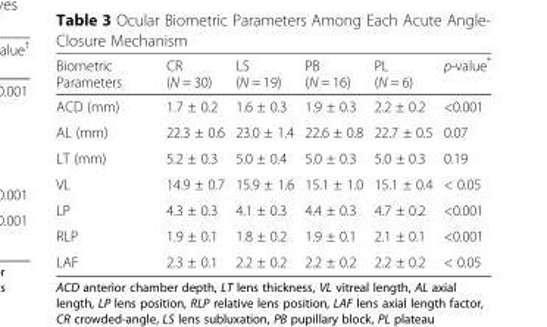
<table><thead><tr><td>Biometric Parameters</td><td>CR (N = 30)</td><td>LS (N = 19)</td><td>PB (N = 16)</td><td>PL (N = 6)</td><td>p-value*</td></tr></thead><tbody><tr><td>ACD (mm)</td><td>1.7 ± 0.2</td><td>1.6 ± 0.3</td><td>1.9 ± 0.3</td><td>2.2 ± 0.2</td><td>&lt;0.001</td></tr><tr><td>AL (mm)</td><td>22.3 ± 0.6</td><td>23.0 ± 1.4</td><td>22.6 ± 0.8</td><td>22.7 ± 0.5</td><td>0.07</td></tr><tr><td>LT (mm)</td><td>5.2 ± 0.3</td><td>5.0 ± 0.4</td><td>5.0 ± 0.3</td><td>5.0 ± 0.3</td><td>0.19</td></tr><tr><td>VL</td><td>14.9 ± 0.7</td><td>15.9 ± 1.6</td><td>15.1 ± 1.0</td><td>15.1 ± 0.4</td><td>&lt; 0.05</td></tr><tr><td>LP</td><td>4.3 ± 0.3</td><td>4.1 ± 0.3</td><td>4.4 ± 0.3</td><td>4.7 ± 0.2</td><td>&lt;0.001</td></tr><tr><td>RLP</td><td>1.9 ± 0.1</td><td>1.8 ± 0.2</td><td>1.9 ± 0.1</td><td>2.1 ± 0.1</td><td>&lt;0.001</td></tr><tr><td>LAF</td><td>2.3 ± 0.1</td><td>2.2 ± 0.2</td><td>2.2 ± 0.2</td><td>2.2 ± 0.2</td><td>&lt; 0.05</td></tr></tbody></table>